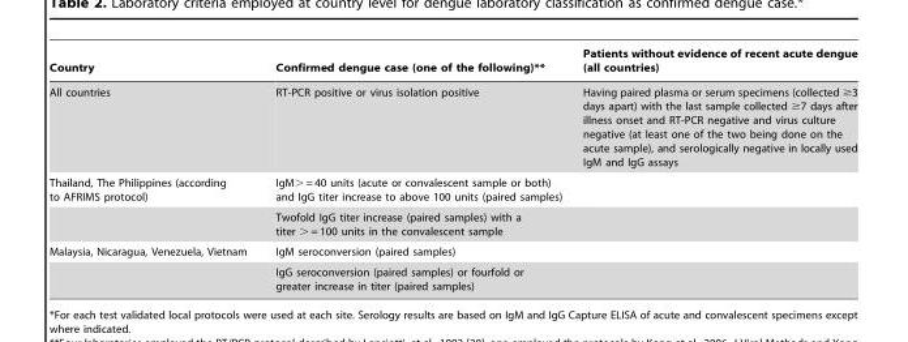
<table><thead><tr><td>Country</td><td>Confirmed dengue case (one of the following)**</td><td>Patients without evidence of recent acute dengue (all countries)</td></tr></thead><tbody><tr><td>All countries</td><td>RT-PCR positive or virus isolation positive</td><td>Having paired plasma or serum specimens (collected ≥3 days apart) with the last sample collected ≥7 days after illness onset and RT-PCR negative and virus culture negative (at least one of the two being done on the acute sample), and serologically negative in locally used IgM and IgG assays</td></tr><tr><td rowspan="2">Thailand, The Philippines (according to AFRIMS protocol)</td><td>IgM&gt; = 40 units (acute or convalescent sample or both) and IgG titer increase to above 100 units (paired samples)</td><td></td></tr><tr><td>Twofold IgG titer increase (paired samples) with a titer &gt; = 100 units in the convalescent sample</td><td></td></tr><tr><td rowspan="2">Malaysia, Nicaragua, Venezuela, Vietnam</td><td>IgM seroconversion (paired samples)</td><td></td></tr><tr><td>IgG seroconversion (paired samples) or fourfold or greater increase in titer (paired samples)</td><td></td></tr></tbody></table>